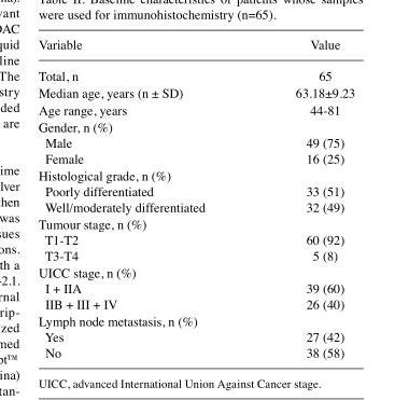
<table><thead><tr><td>Variable</td><td>Value</td></tr></thead><tbody><tr><td>Total, n</td><td>65</td></tr><tr><td>Median age, years (n ± SD)</td><td>63.18±9.23</td></tr><tr><td>Age range, years</td><td>44-81</td></tr><tr><td colspan="2">Gender, n (%)</td></tr><tr><td>Male</td><td>49 (75)</td></tr><tr><td>Female</td><td>16 (25)</td></tr><tr><td colspan="2">Histological grade, n (%)</td></tr><tr><td>Poorly differentiated</td><td>33 (51)</td></tr><tr><td>Well/moderately differentiated</td><td>32 (49)</td></tr><tr><td colspan="2">Tumour stage, n (%)</td></tr><tr><td>T1‑T2</td><td>60 (92)</td></tr><tr><td>T3-T4</td><td>5 (8)</td></tr><tr><td colspan="2">UICC stage, n (%)</td></tr><tr><td>I + IIA</td><td>39 (60)</td></tr><tr><td>IIB + III + IV</td><td>26 (40)</td></tr><tr><td colspan="2">Lymph node metastasis, n (%)</td></tr><tr><td>Yes</td><td>27 (42)</td></tr><tr><td>No</td><td>38 (58)</td></tr></tbody></table>